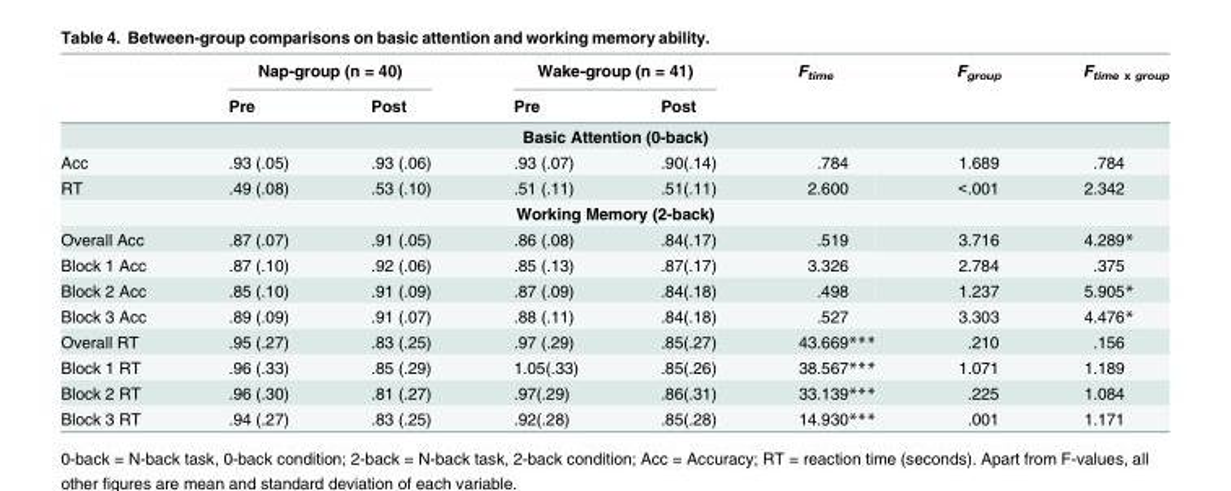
<table><thead><tr><td rowspan="2"></td><td colspan="2">Nap-group (n = 40)</td><td colspan="2">Wake-group (n = 41)</td><td rowspan="2">F<sub>time</sub></td><td rowspan="2">F<sub>group</sub></td><td rowspan="2">F<sub>time x group</sub></td></tr><tr><td>Pre</td><td>Post</td><td>Pre</td><td>Post</td></tr></thead><tbody><tr><td colspan="8">Basic Attention (0-back)</td></tr><tr><td>Acc</td><td>.93 (.05)</td><td>.93 (.06)</td><td>.93 (.07)</td><td>.90(.14)</td><td>.784</td><td>1.689</td><td>.784</td></tr><tr><td>RT</td><td>.49 (.08)</td><td>.53 (.10)</td><td>.51 (.11)</td><td>.51(.11)</td><td>2.600</td><td>&lt;.001</td><td>2.342</td></tr><tr><td colspan="8">Working Memory (2-back)</td></tr><tr><td>Overall Acc</td><td>.87 (.07)</td><td>.91 (.05)</td><td>.86 (.08)</td><td>.84(.17)</td><td>.519</td><td>3.716</td><td>4.289*</td></tr><tr><td>Block 1 Acc</td><td>.87 (.10)</td><td>.92 (.06)</td><td>.85 (.13)</td><td>.87(.17)</td><td>3.326</td><td>2.784</td><td>.375</td></tr><tr><td>Block 2 Acc</td><td>.85 (.10)</td><td>.91 (.09)</td><td>.87 (.09)</td><td>.84(.18)</td><td>.498</td><td>1.237</td><td>5.905*</td></tr><tr><td>Block 3 Acc</td><td>.89 (.09)</td><td>.91 (.07)</td><td>.88 (.11)</td><td>.84(.18)</td><td>.527</td><td>3.303</td><td>4.476*</td></tr><tr><td>Overall RT</td><td>.95 (.27)</td><td>.83 (.25)</td><td>.97 (.29)</td><td>.85(.27)</td><td>43.669***</td><td>.210</td><td>.156</td></tr><tr><td>Block 1 RT</td><td>.96 (.33)</td><td>.85 (.29)</td><td>1.05(.33)</td><td>.85(.26)</td><td>38.567***</td><td>1.071</td><td>1.189</td></tr><tr><td>Block 2 RT</td><td>.96 (.30)</td><td>.81 (.27)</td><td>.97(.29)</td><td>.86(.31)</td><td>33.139***</td><td>.225</td><td>1.084</td></tr><tr><td>Block 3 RT</td><td>.94 (.27)</td><td>.83 (.25)</td><td>.92(.28)</td><td>.85(.28)</td><td>14.930***</td><td>.001</td><td>1.171</td></tr></tbody></table>